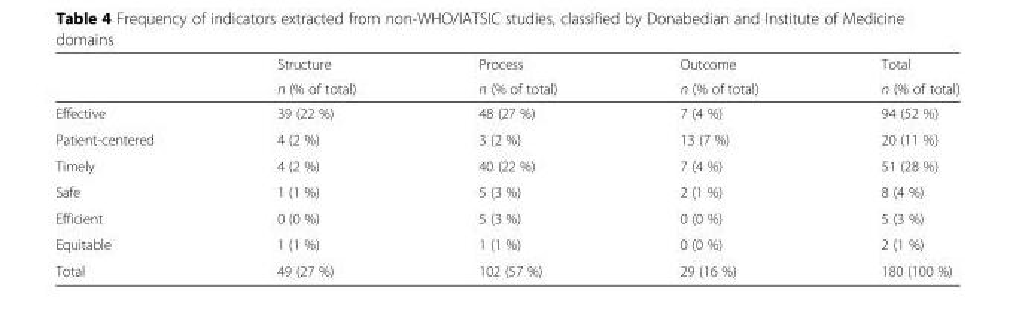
<table><thead><tr><td rowspan="2"></td><td rowspan="2">Structure n (% of total)</td><td rowspan="2">Process n (% of total)</td><td rowspan="2">Outcome n (% of total)</td><td rowspan="2">Total n (% of total)</td></tr><tr></tr></thead><tbody><tr><td>Effective</td><td>39 (22 %)</td><td>48 (27 %)</td><td>7 (4 %)</td><td>94 (52 %)</td></tr><tr><td>Patient-centered</td><td>4 (2 %)</td><td>3 (2 %)</td><td>13 (7 %)</td><td>20 (11 %)</td></tr><tr><td>Timely</td><td>4 (2 %)</td><td>40 (22 %)</td><td>7 (4 %)</td><td>51 (28 %)</td></tr><tr><td>Safe</td><td>1 (1 %)</td><td>5 (3 %)</td><td>2 (1 %)</td><td>8 (4 %)</td></tr><tr><td>Efficient</td><td>0 (0 %)</td><td>5 (3 %)</td><td>0 (0 %)</td><td>5 (3 %)</td></tr><tr><td>Equitable</td><td>1 (1 %)</td><td>1 (1 %)</td><td>0 (0 %)</td><td>2 (1 %)</td></tr><tr><td>Total</td><td>49 (27 %)</td><td>102 (57 %)</td><td>29 (16 %)</td><td>180 (100 %)</td></tr></tbody></table>